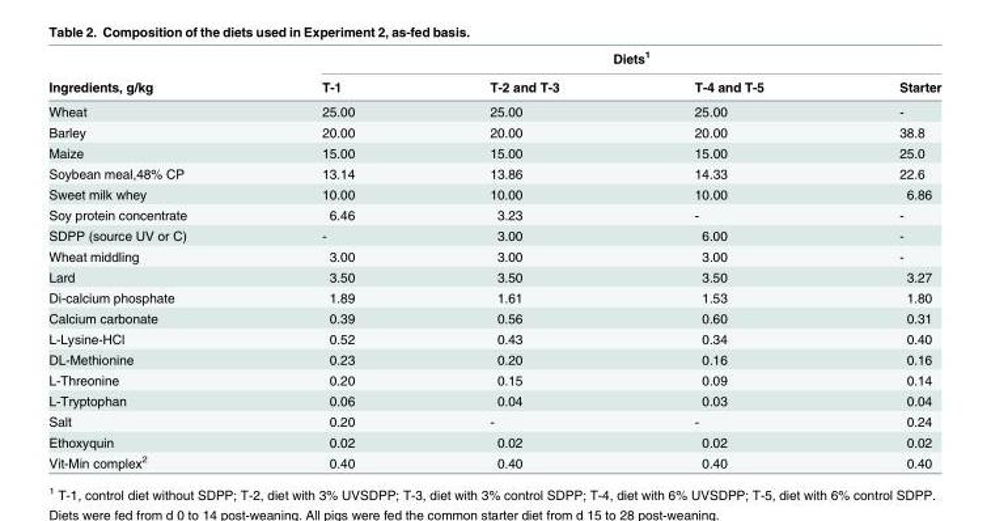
<table><thead><tr><td rowspan="2">Ingredients, g/kg</td><td colspan="4">Diets<sup>1</sup></td></tr><tr><td>T-1</td><td>T-2 and T-3</td><td>T-4 and T-5</td><td>Starter</td></tr></thead><tbody><tr><td>Wheat</td><td>25.00</td><td>25.00</td><td>25.00</td><td>-</td></tr><tr><td>Barley</td><td>20.00</td><td>20.00</td><td>20.00</td><td>38.8</td></tr><tr><td>Maize</td><td>15.00</td><td>15.00</td><td>15.00</td><td>25.0</td></tr><tr><td>Soybean meal,48% CP</td><td>13.14</td><td>13.86</td><td>14.33</td><td>22.6</td></tr><tr><td>Sweet milk whey</td><td>10.00</td><td>10.00</td><td>10.00</td><td>6.86</td></tr><tr><td>Soy protein concentrate</td><td>6.46</td><td>3.23</td><td>-</td><td>-</td></tr><tr><td>SDPP (source UV or C)</td><td>-</td><td>3.00</td><td>6.00</td><td>-</td></tr><tr><td>Wheat middling</td><td>3.00</td><td>3.00</td><td>3.00</td><td>-</td></tr><tr><td>Lard</td><td>3.50</td><td>3.50</td><td>3.50</td><td>3.27</td></tr><tr><td>Di-calcium phosphate</td><td>1.89</td><td>1.61</td><td>1.53</td><td>1.80</td></tr><tr><td>Calcium carbonate</td><td>0.39</td><td>0.56</td><td>0.60</td><td>0.31</td></tr><tr><td>L-Lysine-HCl</td><td>0.52</td><td>0.43</td><td>0.34</td><td>0.40</td></tr><tr><td>DL-Methionine</td><td>0.23</td><td>0.20</td><td>0.16</td><td>0.16</td></tr><tr><td>L-Threonine</td><td>0.20</td><td>0.15</td><td>0.09</td><td>0.14</td></tr><tr><td>L-Tryptophan</td><td>0.06</td><td>0.04</td><td>0.03</td><td>0.04</td></tr><tr><td>Salt</td><td>0.20</td><td>-</td><td>-</td><td>0.24</td></tr><tr><td>Ethoxyquin</td><td>0.02</td><td>0.02</td><td>0.02</td><td>0.02</td></tr><tr><td>Vit-Min complex<sup>2</sup></td><td>0.40</td><td>0.40</td><td>0.40</td><td>0.40</td></tr></tbody></table>